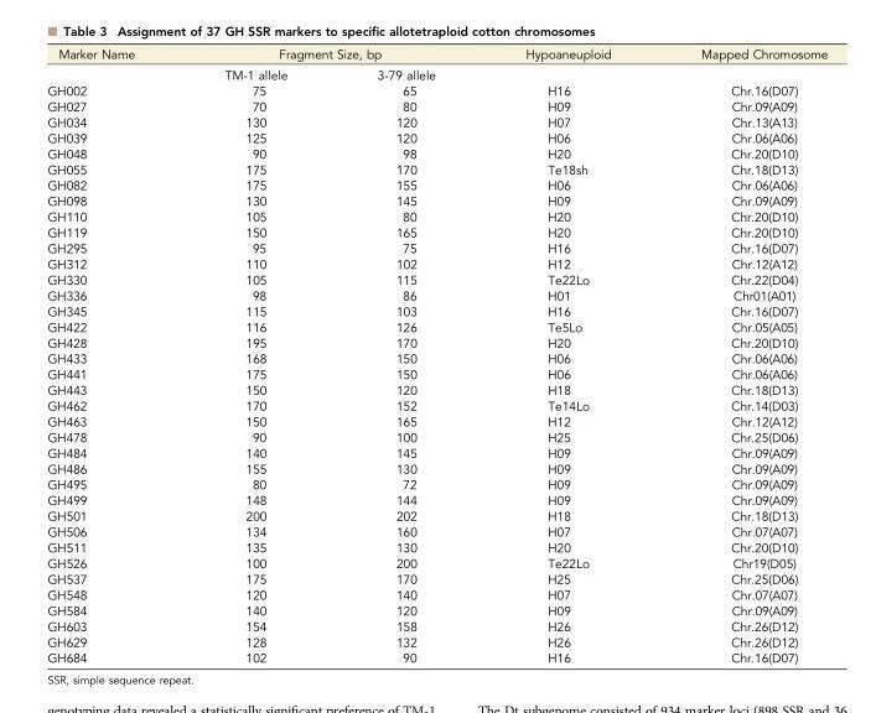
<table><thead><tr><td rowspan="2">Marker Name</td><td colspan="2">Fragment Size, bp</td><td rowspan="2">Hypoaneuploid</td><td rowspan="2">Mapped Chromosome</td></tr><tr><td>TM-1 allele</td><td>3-79 allele</td></tr></thead><tbody><tr><td>GH002</td><td>75</td><td>65</td><td>H16</td><td>Chr.16(D07)</td></tr><tr><td>GH027</td><td>70</td><td>80</td><td>H09</td><td>Chr.09(A09)</td></tr><tr><td>GH034</td><td>130</td><td>120</td><td>H07</td><td>Chr.13(A13)</td></tr><tr><td>GH039</td><td>125</td><td>120</td><td>H06</td><td>Chr.06(A06)</td></tr><tr><td>GH048</td><td>90</td><td>98</td><td>H20</td><td>Chr.20(D10)</td></tr><tr><td>GH055</td><td>175</td><td>170</td><td>Te18sh</td><td>Chr.18(D13)</td></tr><tr><td>GH082</td><td>175</td><td>155</td><td>H06</td><td>Chr.06(A06)</td></tr><tr><td>GH098</td><td>130</td><td>145</td><td>H09</td><td>Chr.09(A09)</td></tr><tr><td>GH110</td><td>105</td><td>80</td><td>H20</td><td>Chr.20(D10)</td></tr><tr><td>GH119</td><td>150</td><td>165</td><td>H20</td><td>Chr.20(D10)</td></tr><tr><td>GH295</td><td>95</td><td>75</td><td>H16</td><td>Chr.16(D07)</td></tr><tr><td>GH312</td><td>110</td><td>102</td><td>H12</td><td>Chr.12(A12)</td></tr><tr><td>GH330</td><td>105</td><td>115</td><td>Te22Lo</td><td>Chr.22(D04)</td></tr><tr><td>GH336</td><td>98</td><td>86</td><td>H01</td><td>Chr01(A01)</td></tr><tr><td>GH345</td><td>115</td><td>103</td><td>H16</td><td>Chr.16(D07)</td></tr><tr><td>GH422</td><td>116</td><td>126</td><td>Te5Lo</td><td>Chr.05(A05)</td></tr><tr><td>GH428</td><td>195</td><td>170</td><td>H20</td><td>Chr.20(D10)</td></tr><tr><td>GH433</td><td>168</td><td>150</td><td>H06</td><td>Chr.06(A06)</td></tr><tr><td>GH441</td><td>175</td><td>150</td><td>H06</td><td>Chr.06(A06)</td></tr><tr><td>GH443</td><td>150</td><td>120</td><td>H18</td><td>Chr.18(D13)</td></tr><tr><td>GH462</td><td>170</td><td>152</td><td>Te14Lo</td><td>Chr.14(D03)</td></tr><tr><td>GH463</td><td>150</td><td>165</td><td>H12</td><td>Chr.12(A12)</td></tr><tr><td>GH478</td><td>90</td><td>100</td><td>H25</td><td>Chr.25(D06)</td></tr><tr><td>GH484</td><td>140</td><td>145</td><td>H09</td><td>Chr.09(A09)</td></tr><tr><td>GH486</td><td>155</td><td>130</td><td>H09</td><td>Chr.09(A09)</td></tr><tr><td>GH495</td><td>80</td><td>72</td><td>H09</td><td>Chr.09(A09)</td></tr><tr><td>GH499</td><td>148</td><td>144</td><td>H09</td><td>Chr.09(A09)</td></tr><tr><td>GH501</td><td>200</td><td>202</td><td>H18</td><td>Chr.18(D13)</td></tr><tr><td>GH506</td><td>134</td><td>160</td><td>H07</td><td>Chr.07(A07)</td></tr><tr><td>GH511</td><td>135</td><td>130</td><td>H20</td><td>Chr.20(D10)</td></tr><tr><td>GH526</td><td>100</td><td>200</td><td>Te22Lo</td><td>Chr19(D05)</td></tr><tr><td>GH537</td><td>175</td><td>170</td><td>H25</td><td>Chr.25(D06)</td></tr><tr><td>GH548</td><td>120</td><td>140</td><td>H07</td><td>Chr.07(A07)</td></tr><tr><td>GH584</td><td>140</td><td>120</td><td>H09</td><td>Chr.09(A09)</td></tr><tr><td>GH603</td><td>154</td><td>158</td><td>H26</td><td>Chr.26(D12)</td></tr><tr><td>GH629</td><td>128</td><td>132</td><td>H26</td><td>Chr.26(D12)</td></tr><tr><td>GH684</td><td>102</td><td>90</td><td>H16</td><td>Chr.16(D07)</td></tr></tbody></table>